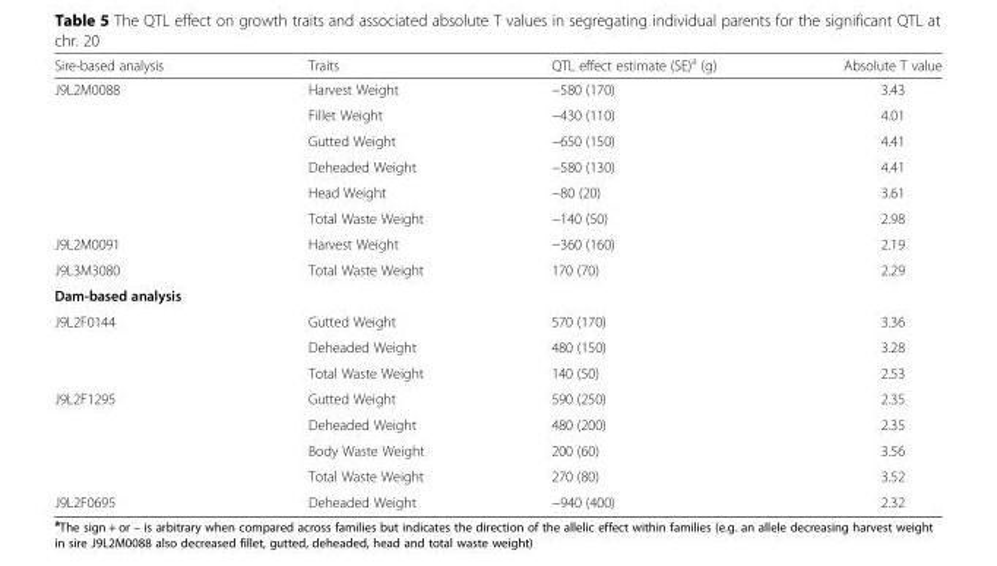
<table><thead><tr><td>Sire-based analysis</td><td>Traits</td><td>QTL effect estimate (SE)<sup>a</sup> (g)</td><td>Absolute T value</td></tr></thead><tbody><tr><td rowspan="6">J9L2M0088</td><td>Harvest Weight</td><td>−580 (170)</td><td>3.43</td></tr><tr><td>Fillet Weight</td><td>−430 (110)</td><td>4.01</td></tr><tr><td>Gutted Weight</td><td>−650 (150)</td><td>4.41</td></tr><tr><td>Deheaded Weight</td><td>−580 (130)</td><td>4.41</td></tr><tr><td>Head Weight</td><td>−80 (20)</td><td>3.61</td></tr><tr><td>Total Waste Weight</td><td>−140 (50)</td><td>2.98</td></tr><tr><td>J9L2M0091</td><td>Harvest Weight</td><td>−360 (160)</td><td>2.19</td></tr><tr><td>J9L3M3080</td><td>Total Waste Weight</td><td>170 (70)</td><td>2.29</td></tr><tr><td colspan="4">Dam-based analysis</td></tr><tr><td rowspan="3">J9L2F0144</td><td>Gutted Weight</td><td>570 (170)</td><td>3.36</td></tr><tr><td>Deheaded Weight</td><td>480 (150)</td><td>3.28</td></tr><tr><td>Total Waste Weight</td><td>140 (50)</td><td>2.53</td></tr><tr><td rowspan="4">J9L2F1295</td><td>Gutted Weight</td><td>590 (250)</td><td>2.35</td></tr><tr><td>Deheaded Weight</td><td>480 (200)</td><td>2.35</td></tr><tr><td>Body Waste Weight</td><td>200 (60)</td><td>3.56</td></tr><tr><td>Total Waste Weight</td><td>270 (80)</td><td>3.52</td></tr><tr><td>J9L2F0695</td><td>Deheaded Weight</td><td>−940 (400)</td><td>2.32</td></tr></tbody></table>